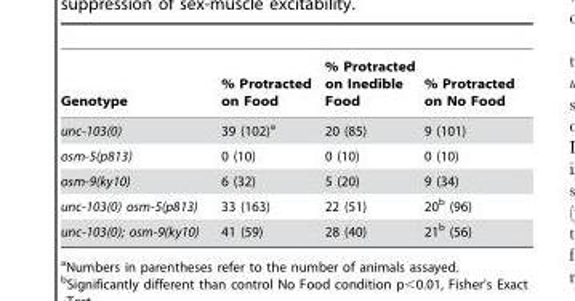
<table><thead><tr><td>Genotype</td><td>% Protracted on Food</td><td>% Protracted on Inedible Food</td><td>% Protracted on No Food</td></tr></thead><tbody><tr><td>unc-103(0)</td><td>39 (102)<sup>a</sup></td><td>20 (85)</td><td>9 (101)</td></tr><tr><td>osm-5(p813)</td><td>0 (10)</td><td>0 (10)</td><td>0 (10)</td></tr><tr><td>osm-9(ky10)</td><td>6 (32)</td><td>5 (20)</td><td>9 (34)</td></tr><tr><td>unc-103(0) osm-5(p813)</td><td>33 (163)</td><td>22 (51)</td><td>20<sup>b</sup> (96)</td></tr><tr><td>unc-103(0); osm-9(ky10)</td><td>41 (59)</td><td>28 (40)</td><td>21<sup>b</sup> (56)</td></tr></tbody></table>